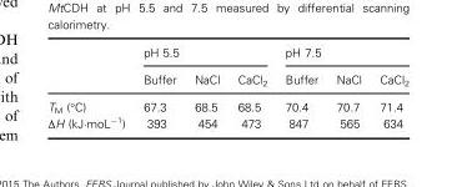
<table><thead><tr><td rowspan="2"></td><td colspan="3">pH 5.5</td><td colspan="3">pH 7.5</td></tr><tr><td>Buffer</td><td>NaCl</td><td>CaCl<sub>2</sub></td><td>Buffer</td><td>NaCl</td><td>CaCl<sub>2</sub></td></tr></thead><tbody><tr><td>T<sub>M</sub> (°C)</td><td>67.3</td><td>68.5</td><td>68.5</td><td>70.4</td><td>70.7</td><td>71.4</td></tr><tr><td>ΔH (kJ·moL−1)</td><td>393</td><td>454</td><td>473</td><td>847</td><td>565</td><td>634</td></tr></tbody></table>